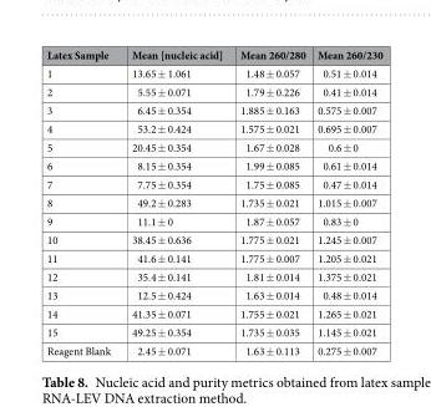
<table><thead><tr><td>Latex Sample</td><td>Mean [nucleic acid]</td><td>Mean 260/280</td><td>Mean 260/230</td></tr></thead><tbody><tr><td>1</td><td>13.65 ± 1.061</td><td>1.48 ± 0.057</td><td>0.51 ± 0.014</td></tr><tr><td>2</td><td>5.55 ± 0.071</td><td>1.79 ± 0.226</td><td>0.41 ± 0.014</td></tr><tr><td>3</td><td>6.45 ± 0.354</td><td>1.885 ± 0.163</td><td>0.575 ± 0.007</td></tr><tr><td>4</td><td>53.2 ± 0.424</td><td>1.575 ± 0.021</td><td>0.695 ± 0.007</td></tr><tr><td>5</td><td>20.45 ± 0.354</td><td>1.67 ± 0.028</td><td>0.6 ± 0</td></tr><tr><td>6</td><td>8.15 ± 0.354</td><td>1.99 ± 0.085</td><td>0.61 ± 0.014</td></tr><tr><td>7</td><td>7.75 ± 0.354</td><td>1.75 ± 0.085</td><td>0.47 ± 0.014</td></tr><tr><td>8</td><td>49.2 ± 0.283</td><td>1.735 ± 0.021</td><td>1.015 ± 0.007</td></tr><tr><td>9</td><td>11.1 ± 0</td><td>1.87 ± 0.057</td><td>0.83 ± 0</td></tr><tr><td>10</td><td>38.45 ± 0.636</td><td>1.775 ± 0.021</td><td>1.245 ± 0.007</td></tr><tr><td>11</td><td>41.6 ± 0.141</td><td>1.775 ± 0.007</td><td>1.205 ± 0.021</td></tr><tr><td>12</td><td>35.4 ± 0.141</td><td>1.81 ± 0.014</td><td>1.375 ± 0.021</td></tr><tr><td>13</td><td>12.5 ± 0.424</td><td>1.63 ± 0.014</td><td>0.48 ± 0.014</td></tr><tr><td>14</td><td>41.35 ± 0.071</td><td>1.755 ± 0.021</td><td>1.265 ± 0.021</td></tr><tr><td>15</td><td>49.25 ± 0.354</td><td>1.735 ± 0.035</td><td>1.145 ± 0.021</td></tr><tr><td>Reagent Blank</td><td>2.45 ± 0.071</td><td>1.63 ± 0.113</td><td>0.275 ± 0.007</td></tr></tbody></table>